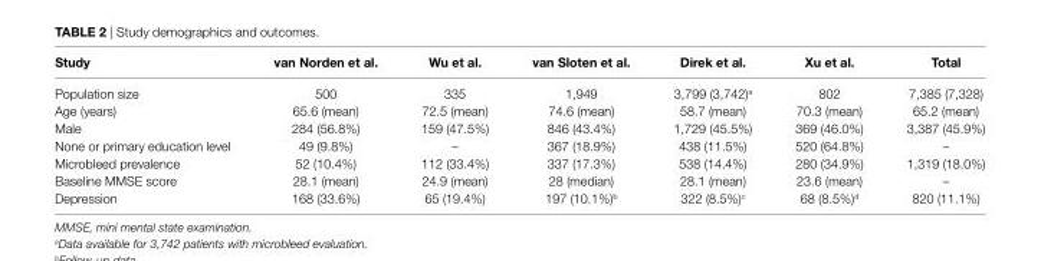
<table><thead><tr><td>Study</td><td>van Norden et al.</td><td>wu et al.</td><td>van Sloten et al.</td><td>Direk et al.</td><td>Xu et al.</td><td>total</td></tr></thead><tbody><tr><td>Population size</td><td>500</td><td>335</td><td>1,949</td><td>3,799 (3,742)<sup>a</sup></td><td>802</td><td>7,385 (7,328)</td></tr><tr><td>Age (years)</td><td>65.6 (mean)</td><td>72.5 (mean)</td><td>74.6 (mean)</td><td>58.7 (mean)</td><td>70.3 (mean)</td><td>65.2 (mean)</td></tr><tr><td>Male</td><td>284 (56.8%)</td><td>159 (47.5%)</td><td>846 (43.4%)</td><td>1,729 (45.5%)</td><td>369 (46.0%)</td><td>3,387 (45.9%)</td></tr><tr><td>None or primary education level</td><td>49 (9.8%)</td><td>–</td><td>367 (18.9%)</td><td>438 (11.5%)</td><td>520 (64.8%)</td><td>–</td></tr><tr><td>Microbleed prevalence</td><td>52 (10.4%)</td><td>112 (33.4%)</td><td>337 (17.3%)</td><td>538 (14.4%)</td><td>280 (34.9%)</td><td>1,319 (18.0%)</td></tr><tr><td>Baseline MMSE score</td><td>28.1 (mean)</td><td>24.9 (mean)</td><td>28 (median)</td><td>28.1 (mean)</td><td>23.6 (mean)</td><td>–</td></tr><tr><td>Depression</td><td>168 (33.6%)</td><td>65 (19.4%)</td><td>197 (10.1%)<sup>b</sup></td><td>322 (8.5%)<sup>c</sup></td><td>68 (8.5%)<sup>d</sup></td><td>820 (11.1%)</td></tr></tbody></table>